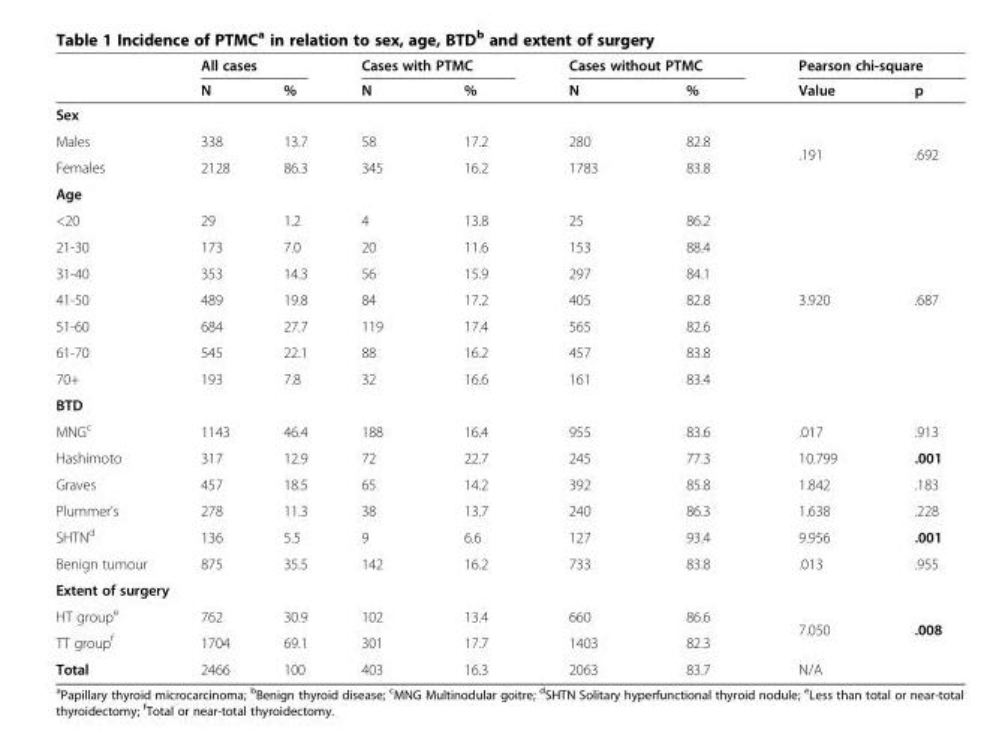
<table><thead><tr><td rowspan="2"></td><td colspan="2">All cases</td><td colspan="2">Cases with PTMC</td><td colspan="2">Cases without PTMC</td><td colspan="2">Pearson chi-square</td></tr><tr><td>N</td><td>%</td><td>N</td><td>%</td><td>N</td><td>%</td><td>Value</td><td>p</td></tr></thead><tbody><tr><td colspan="9">Sex</td></tr><tr><td>Males</td><td>338</td><td>13.7</td><td>58</td><td>17.2</td><td>280</td><td>82.8</td><td rowspan="2">.191</td><td rowspan="2">.692</td></tr><tr><td>Females</td><td>2128</td><td>86.3</td><td>345</td><td>16.2</td><td>1783</td><td>83.8</td></tr><tr><td colspan="9">Age</td></tr><tr><td>&lt;20</td><td>29</td><td>1.2</td><td>4</td><td>13.8</td><td>25</td><td>86.2</td><td rowspan="7">3.920</td><td rowspan="7">.687</td></tr><tr><td>21-30</td><td>173</td><td>7.0</td><td>20</td><td>11.6</td><td>153</td><td>88.4</td></tr><tr><td>31-40</td><td>353</td><td>14.3</td><td>56</td><td>15.9</td><td>297</td><td>84.1</td></tr><tr><td>41-50</td><td>489</td><td>19.8</td><td>84</td><td>17.2</td><td>405</td><td>82.8</td></tr><tr><td>51-60</td><td>684</td><td>27.7</td><td>119</td><td>17.4</td><td>565</td><td>82.6</td></tr><tr><td>61-70</td><td>545</td><td>22.1</td><td>88</td><td>16.2</td><td>457</td><td>83.8</td></tr><tr><td>70+</td><td>193</td><td>7.8</td><td>32</td><td>16.6</td><td>161</td><td>83.4</td></tr><tr><td colspan="9">BTD</td></tr><tr><td>MNG<sup>c</sup></td><td>1143</td><td>46.4</td><td>188</td><td>16.4</td><td>955</td><td>83.6</td><td>.017</td><td>.913</td></tr><tr><td>Hashimoto</td><td>317</td><td>12.9</td><td>72</td><td>22.7</td><td>245</td><td>77.3</td><td>10.799</td><td>.001</td></tr><tr><td>Graves</td><td>457</td><td>18.5</td><td>65</td><td>14.2</td><td>392</td><td>85.8</td><td>1.842</td><td>.183</td></tr><tr><td>Plummer&#x27;s</td><td>278</td><td>11.3</td><td>38</td><td>13.7</td><td>240</td><td>86.3</td><td>1.638</td><td>.228</td></tr><tr><td>SHTN<sup>d</sup></td><td>136</td><td>5.5</td><td>9</td><td>6.6</td><td>127</td><td>93.4</td><td>9.956</td><td>.001</td></tr><tr><td>Benign tumour</td><td>875</td><td>35.5</td><td>142</td><td>16.2</td><td>733</td><td>83.8</td><td>.013</td><td>.955</td></tr><tr><td colspan="9">Extent of surgery</td></tr><tr><td>HT group<sup>e</sup></td><td>762</td><td>30.9</td><td>102</td><td>13.4</td><td>660</td><td>86.6</td><td rowspan="2">7.050</td><td rowspan="2">.008</td></tr><tr><td>TT group<sup>f</sup></td><td>1704</td><td>69.1</td><td>301</td><td>17.7</td><td>1403</td><td>82.3</td></tr><tr><td>Total</td><td>2466</td><td>100</td><td>403</td><td>16.3</td><td>2063</td><td>83.7</td><td colspan="2">N/A</td></tr></tbody></table>